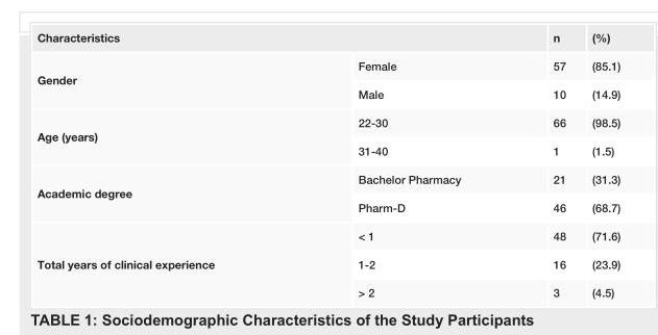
<table><tbody><tr><td colspan="2">Characteristics</td><td>n</td><td>(%)</td></tr><tr><td rowspan="2">Gender</td><td>Female</td><td>57</td><td>(85.1)</td></tr><tr><td>Male</td><td>10</td><td>(14.9)</td></tr><tr><td rowspan="2">Age (years)</td><td>22-30</td><td>66</td><td>(98.5)</td></tr><tr><td>31-40</td><td>1</td><td>(1.5)</td></tr><tr><td rowspan="2">Academic degree</td><td>Bachelor Pharmacy</td><td>21</td><td>(31.3)</td></tr><tr><td>Pharm-D</td><td>46</td><td>(68.7)</td></tr><tr><td rowspan="3">Total years of clinical experience</td><td>&lt; 1</td><td>48</td><td>(71.6)</td></tr><tr><td>1-2</td><td>16</td><td>(23.9)</td></tr><tr><td>&gt; 2</td><td>3</td><td>(4.5)</td></tr></tbody></table>